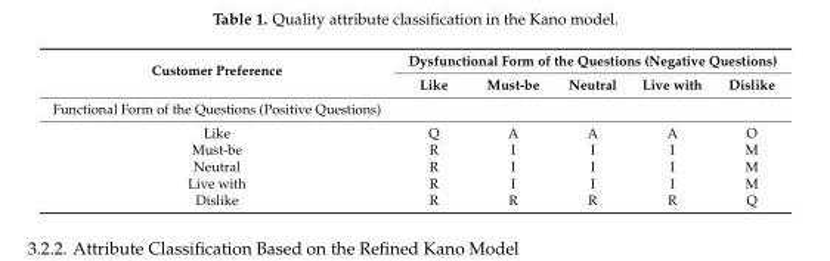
<table><thead><tr><td rowspan="2">Customer Preference</td><td colspan="5">Dysfunctional Form of the Questions (Negative Questions)</td></tr><tr><td>Like</td><td>Must-be</td><td>Neutral</td><td>Live with</td><td>Dislike</td></tr></thead><tbody><tr><td colspan="6">Functional Form of the Questions (Positive Questions)</td></tr><tr><td>Like</td><td>Q</td><td>A</td><td>A</td><td>A</td><td>O</td></tr><tr><td>Must-be</td><td>R</td><td>I</td><td>I</td><td>I</td><td>M</td></tr><tr><td>Neutral</td><td>R</td><td>I</td><td>I</td><td>I</td><td>M</td></tr><tr><td>Live with</td><td>R</td><td>I</td><td>I</td><td>I</td><td>M</td></tr><tr><td>Dislike</td><td>R</td><td>R</td><td>R</td><td>R</td><td>Q</td></tr></tbody></table>